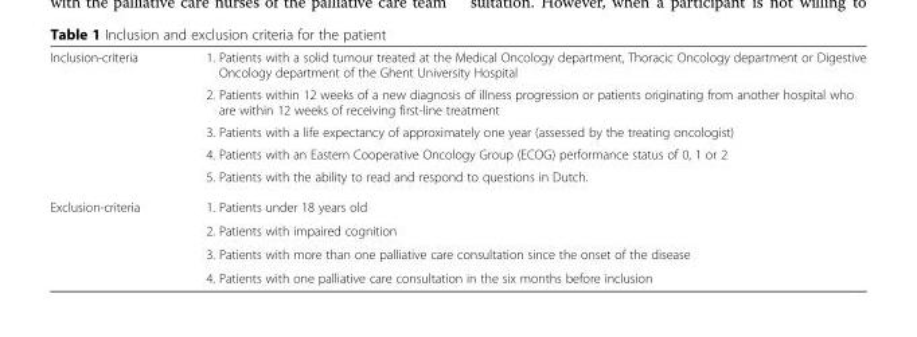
<table><thead><tr><td rowspan="5">Inclusion-criteria</td><td rowspan="5">1. Patients with a solid tumour treated at the Medical Oncology department, Thoracic Oncology department or Digestive Oncology department of the Ghent University Hospital 2. Patients within 12 weeks of a new diagnosis of illness progression or patients originating from another hospital who are within 12 weeks of receiving first-line treatment 3. Patients with a life expectancy of approximately one year (assessed by the treating oncologist) 4. Patients with an Eastern Cooperative Oncology Group (ECOG) performance status of 0, 1 or 2 5. Patients with the ability to read and respond to questions in Dutch.</td></tr><tr></tr><tr></tr><tr></tr><tr></tr></thead><tbody><tr><td rowspan="4">Exclusion-criteria</td><td>1. Patients under 18 years old</td></tr><tr><td>2. Patients with impaired cognition</td></tr><tr><td>3. Patients with more than one palliative care consultation since the onset of the disease</td></tr><tr><td>4. Patients with one palliative care consultation in the six months before inclusion</td></tr></tbody></table>